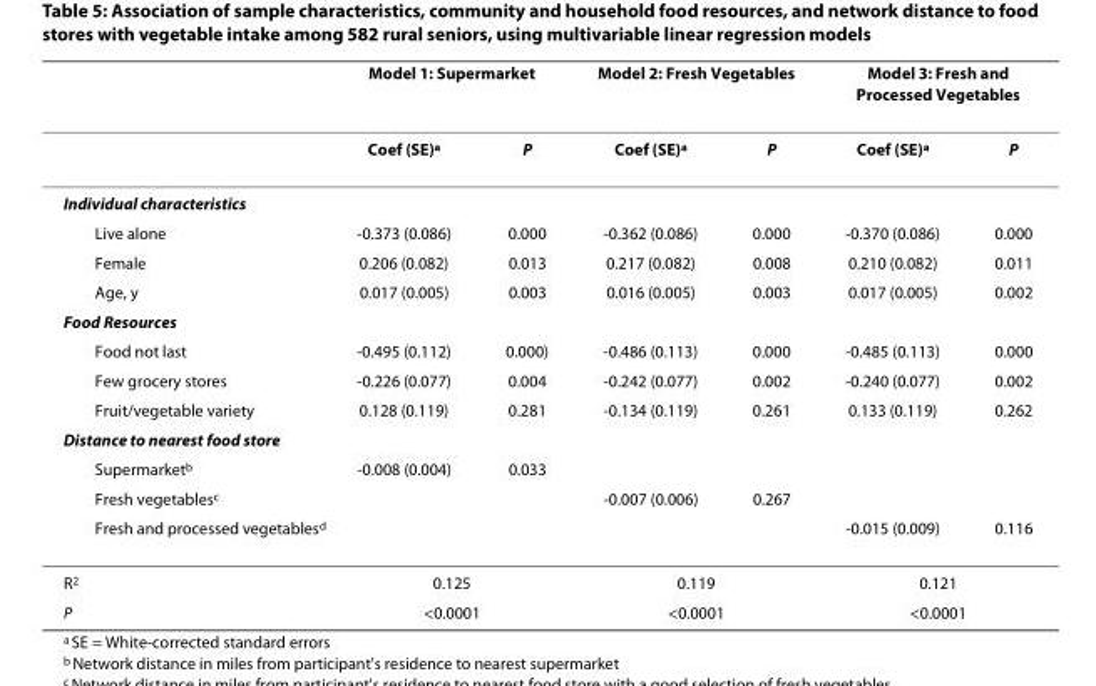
<table><thead><tr><td rowspan="2"></td><td colspan="2">Model 1: Supermarket</td><td colspan="2">Model 2: Fresh Vegetables</td><td colspan="2">Model 3: Fresh and Processed Vegetables</td></tr><tr><td>Coef (SE)<sup>a</sup></td><td>P</td><td>Coef (SE)<sup>a</sup></td><td>P</td><td>Coef (SE)<sup>a</sup></td><td>P</td></tr></thead><tbody><tr><td colspan="7">Individual characteristics</td></tr><tr><td>Live alone</td><td>-0.373 (0.086)</td><td>0.000</td><td>-0.362 (0.086)</td><td>0.000</td><td>-0.370 (0.086)</td><td>0.000</td></tr><tr><td>Female</td><td>0.206 (0.082)</td><td>0.013</td><td>0.217 (0.082)</td><td>0.008</td><td>0.210 (0.082)</td><td>0.011</td></tr><tr><td>Age, y</td><td>0.017 (0.005)</td><td>0.003</td><td>0.016 (0.005)</td><td>0.003</td><td>0.017 (0.005)</td><td>0.002</td></tr><tr><td colspan="7">Food Resources</td></tr><tr><td>Food not last</td><td>-0.495 (0.112)</td><td>0.000)</td><td>-0.486 (0.113)</td><td>0.000</td><td>-0.485 (0.113)</td><td>0.000</td></tr><tr><td>Few grocery stores</td><td>-0.226 (0.077)</td><td>0.004</td><td>-0.242 (0.077)</td><td>0.002</td><td>-0.240 (0.077)</td><td>0.002</td></tr><tr><td>Fruit/vegetable variety</td><td>0.128 (0.119)</td><td>0.281</td><td>-0.134 (0.119)</td><td>0.261</td><td>0.133 (0.119)</td><td>0.262</td></tr><tr><td colspan="7">Distance to nearest food store</td></tr><tr><td>Supermarket<sup>b</sup></td><td>-0.008 (0.004)</td><td>0.033</td><td></td><td></td><td></td><td></td></tr><tr><td>Fresh vegetables<sup>c</sup></td><td></td><td></td><td>-0.007 (0.006)</td><td>0.267</td><td></td><td></td></tr><tr><td colspan="3">Fresh and processed vegetables<sup>d</sup></td><td></td><td></td><td>-0.015 (0.009)</td><td>0.116</td></tr><tr><td>R<sup>2</sup></td><td colspan="2">0.125</td><td colspan="2">0.119</td><td colspan="2">0.121</td></tr><tr><td>P</td><td colspan="2">&lt;0.0001</td><td colspan="2">&lt;0.0001</td><td colspan="2">&lt;0.0001</td></tr></tbody></table>